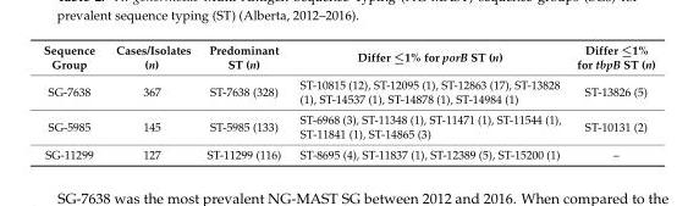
<table><thead><tr><td>Sequence Group</td><td>Cases/Isolates (n)</td><td>Predominant ST (n)</td><td>Differ ≤1% for porB ST (n)</td><td>Differ ≤1% for tbpB ST (n)</td></tr></thead><tbody><tr><td>SG-7638</td><td>367</td><td>ST-7638 (328)</td><td>ST-10815 (12), ST-12095 (1), ST-12863 (17), ST-13828 (1), ST-14537 (1), ST-14878 (1), ST-14984 (1)</td><td>ST-13826 (5)</td></tr><tr><td>SG-5985</td><td>145</td><td>ST-5985 (133)</td><td>ST-6968 (3), ST-11348 (1), ST-11471 (1), ST-11544 (1), ST-11841 (1), ST-14865 (3)</td><td>ST-10131 (2)</td></tr><tr><td>SG-11299</td><td>127</td><td>ST-11299 (116)</td><td>ST-8695 (4), ST-11837 (1), ST-12389 (5), ST-15200 (1)</td><td>–</td></tr></tbody></table>